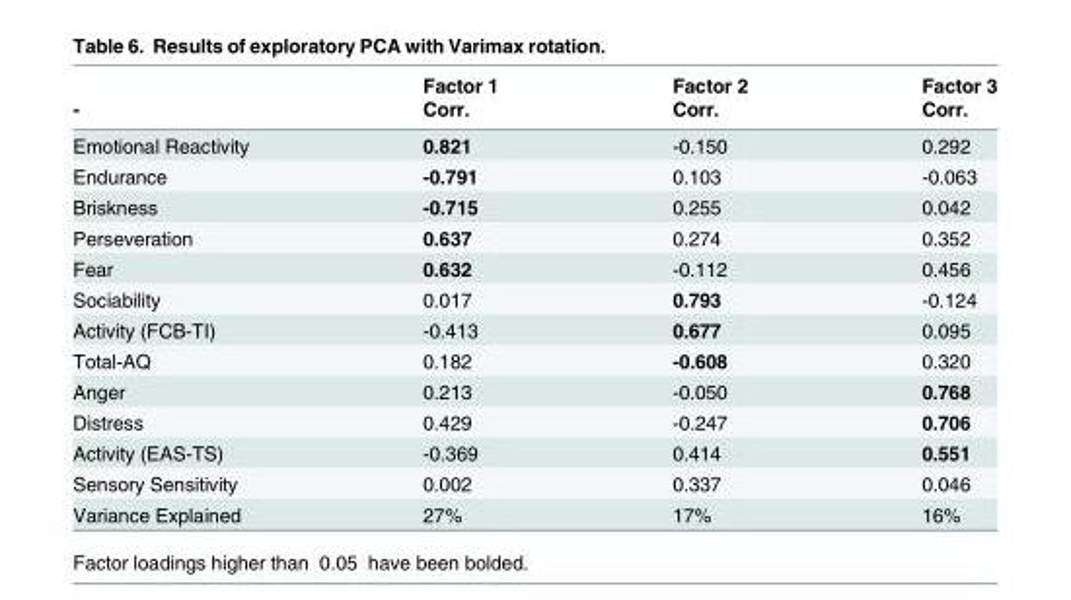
<table><thead><tr><td rowspan="2">-</td><td rowspan="2">Factor 1 Corr.</td><td rowspan="2">Factor 2 Corr.</td><td rowspan="2">Factor 3 Corr.</td></tr><tr></tr></thead><tbody><tr><td>Emotional Reactivity</td><td>0.821</td><td>-0.150</td><td>0.292</td></tr><tr><td>Endurance</td><td>-0.791</td><td>0.103</td><td>-0.063</td></tr><tr><td>Briskness</td><td>-0.715</td><td>0.255</td><td>0.042</td></tr><tr><td>Perseveration</td><td>0.637</td><td>0.274</td><td>0.352</td></tr><tr><td>Fear</td><td>0.632</td><td>-0.112</td><td>0.456</td></tr><tr><td>Sociability</td><td>0.017</td><td>0.793</td><td>-0.124</td></tr><tr><td>Activity (FCB-TI)</td><td>-0.413</td><td>0.677</td><td>0.095</td></tr><tr><td>Total-AQ</td><td>0.182</td><td>-0.608</td><td>0.320</td></tr><tr><td>Anger</td><td>0.213</td><td>-0.050</td><td>0.768</td></tr><tr><td>Distress</td><td>0.429</td><td>-0.247</td><td>0.706</td></tr><tr><td>Activity (EAS-TS)</td><td>-0.369</td><td>0.414</td><td>0.551</td></tr><tr><td>Sensory Sensitivity</td><td>0.002</td><td>0.337</td><td>0.046</td></tr><tr><td>Variance Explained</td><td>27%</td><td>17%</td><td>16%</td></tr></tbody></table>